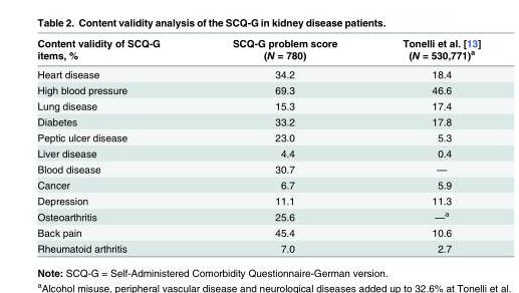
<table><thead><tr><td>Content validity of SCQ-G items, %</td><td>SCQ-G problem score (N = 780)</td><td>Tonelli et al. [13] (N = 530,771)<sup>a</sup></td></tr></thead><tbody><tr><td>Heart disease</td><td>34.2</td><td>18.4</td></tr><tr><td>High blood pressure</td><td>69.3</td><td>46.6</td></tr><tr><td>Lung disease</td><td>15.3</td><td>17.4</td></tr><tr><td>Diabetes</td><td>33.2</td><td>17.8</td></tr><tr><td>Peptic ulcer disease</td><td>23.0</td><td>5.3</td></tr><tr><td>Liver disease</td><td>4.4</td><td>0.4</td></tr><tr><td>Blood disease</td><td>30.7</td><td>—</td></tr><tr><td>Cancer</td><td>6.7</td><td>5.9</td></tr><tr><td>Depression</td><td>11.1</td><td>11.3</td></tr><tr><td>Osteoarthritis</td><td>25.6</td><td>—<sup>a</sup></td></tr><tr><td>Back pain</td><td>45.4</td><td>10.6</td></tr><tr><td>Rheumatoid arthritis</td><td>7.0</td><td>2.7</td></tr></tbody></table>